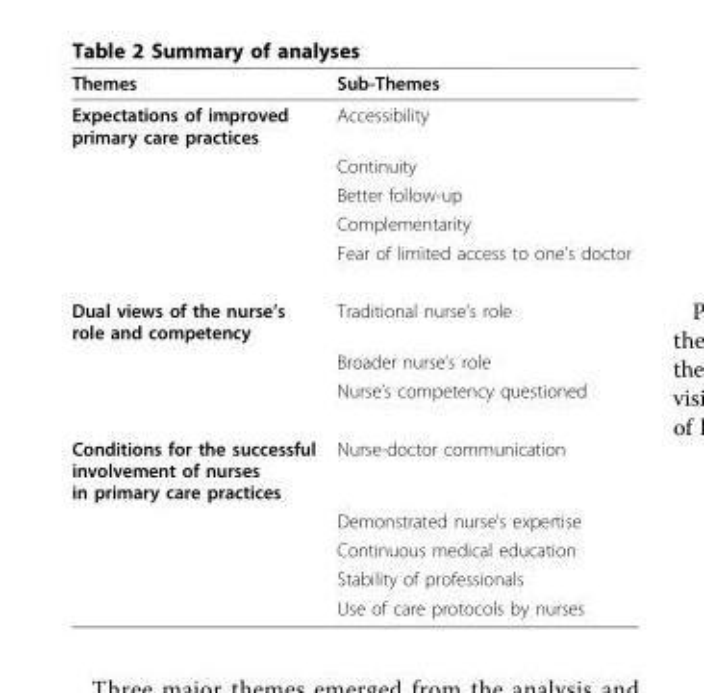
<table><thead><tr><td>Themes</td><td>Sub-Themes</td></tr></thead><tbody><tr><td rowspan="5">Expectations of improved primary care practices</td><td>Accessibility</td></tr><tr><td>Continuity</td></tr><tr><td>Better follow-up</td></tr><tr><td>Complementarity</td></tr><tr><td>Fear of limited access to one’s doctor</td></tr><tr><td rowspan="3">Dual views of the nurse’s role and competency</td><td>Traditional nurse’s role</td></tr><tr><td>Broader nurse’s role</td></tr><tr><td>Nurse’s competency questioned</td></tr><tr><td rowspan="5">Conditions for the successful involvement of nurses in primary care practices</td><td>Nurse-doctor communication</td></tr><tr><td>Demonstrated nurse’s expertise</td></tr><tr><td>Continuous medical education</td></tr><tr><td>Stability of professionals</td></tr><tr><td>Use of care protocols by nurses</td></tr></tbody></table>